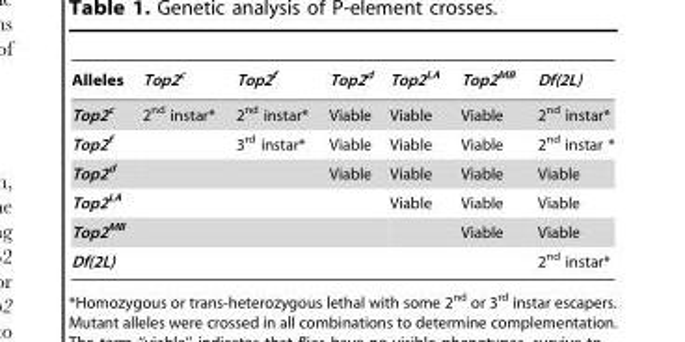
<table><thead><tr><td>Alleles</td><td>Top2<sup>c</sup></td><td>Top2<sup>f</sup></td><td>Top2<sup>d</sup></td><td>Top2<sup>LA</sup></td><td>Top2<sup>MB</sup></td><td>Df(2L)</td></tr></thead><tbody><tr><td>Top2<sup>c</sup></td><td>2<sup>nd</sup> instar*</td><td>2<sup>nd</sup> instar*</td><td>Viable</td><td>Viable</td><td>Viable</td><td>2<sup>nd</sup> instar*</td></tr><tr><td>Top2<sup>f</sup></td><td></td><td>3<sup>rd</sup> instar*</td><td>Viable</td><td>Viable</td><td>Viable</td><td>2<sup>nd</sup> instar *</td></tr><tr><td>Top2<sup>d</sup></td><td></td><td></td><td>Viable</td><td>Viable</td><td>Viable</td><td>Viable</td></tr><tr><td>Top2<sup>LA</sup></td><td></td><td></td><td></td><td>Viable</td><td>Viable</td><td>Viable</td></tr><tr><td>Top2<sup>MB</sup></td><td></td><td></td><td></td><td></td><td>Viable</td><td>Viable</td></tr><tr><td>Df(2L)</td><td></td><td></td><td></td><td></td><td></td><td>2<sup>nd</sup> instar*</td></tr></tbody></table>